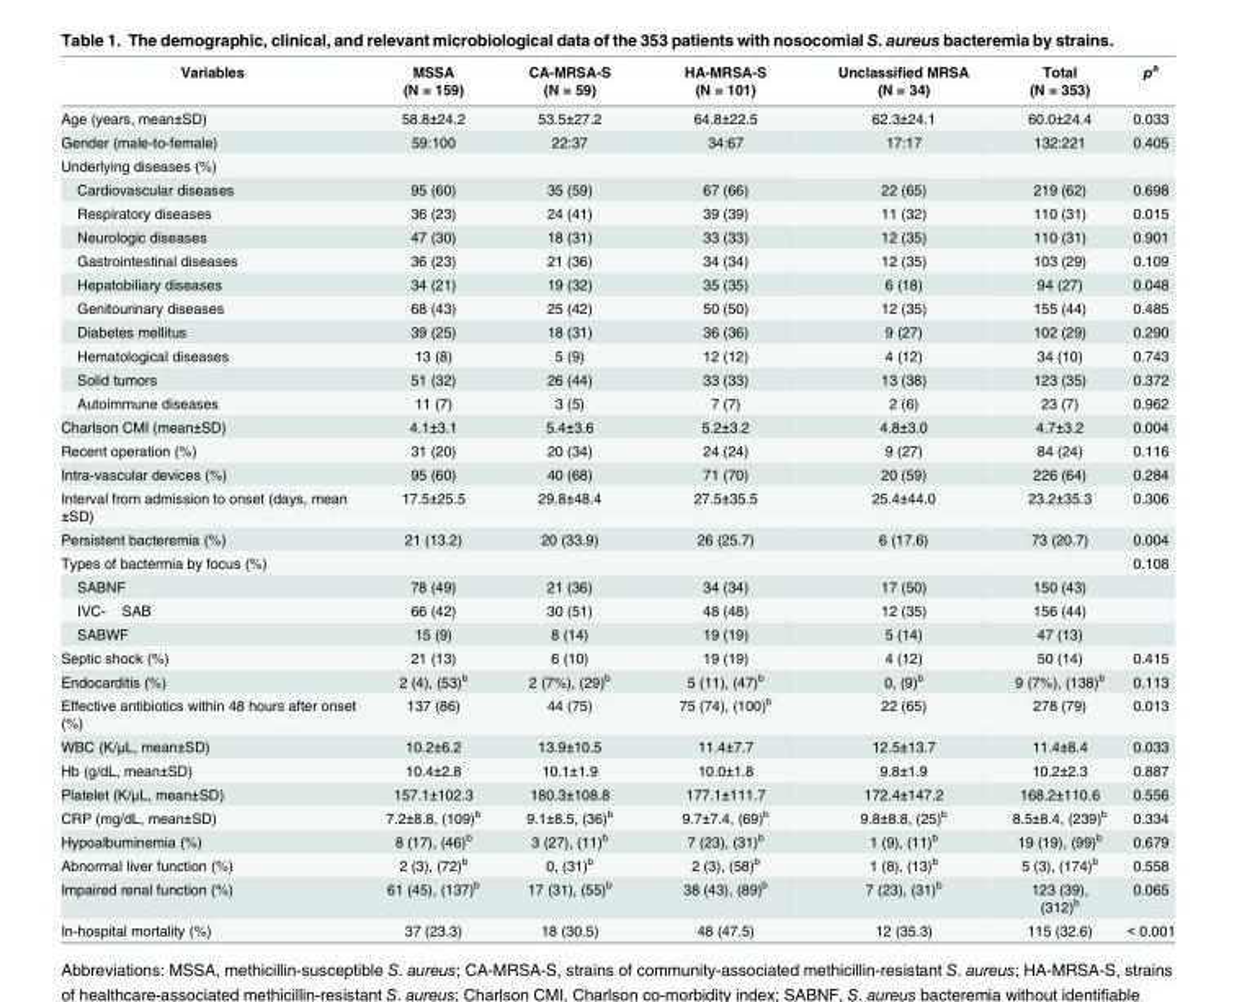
<table><thead><tr><td>Variables</td><td>MSSA (N = 159)</td><td>CA-MRSA-S (N = 59)</td><td>HA-MRSA-S (N = 101)</td><td>Unclassified MRSA (N = 34)</td><td>Total (N = 353)</td><td>p<sup>a</sup></td></tr></thead><tbody><tr><td>Age (years, mean±SD)</td><td>58.8±24.2</td><td>53.5±27.2</td><td>64.8±22.5</td><td>62.3±24.1</td><td>60.0±24.4</td><td>0.033</td></tr><tr><td>Gender (male-to-female)</td><td>59:100</td><td>22:37</td><td>34:67</td><td>17:17</td><td>132:221</td><td>0.405</td></tr><tr><td colspan="7">Underlying diseases (%)</td></tr><tr><td>Cardiovascular diseases</td><td>95 (60)</td><td>35 (59)</td><td>67 (66)</td><td>22 (65)</td><td>219 (62)</td><td>0.698</td></tr><tr><td>Respiratory diseases</td><td>36 (23)</td><td>24 (41)</td><td>39 (39)</td><td>11 (32)</td><td>110 (31)</td><td>0.015</td></tr><tr><td>Neurologic diseases</td><td>47 (30)</td><td>18 (31)</td><td>33 (33)</td><td>12 (35)</td><td>110 (31)</td><td>0.901</td></tr><tr><td>Gastrointestinal diseases</td><td>36 (23)</td><td>21 (36)</td><td>34 (34)</td><td>12 (35)</td><td>103 (29)</td><td>0.109</td></tr><tr><td>Hepatobiliary diseases</td><td>34 (21)</td><td>19 (32)</td><td>35 (35)</td><td>6 (18)</td><td>94 (27)</td><td>0.048</td></tr><tr><td>Genitourinary diseases</td><td>68 (43)</td><td>25 (42)</td><td>50 (50)</td><td>12 (35)</td><td>155 (44)</td><td>0.485</td></tr><tr><td>Diabetes mellitus</td><td>39 (25)</td><td>18 (31)</td><td>36 (36)</td><td>9 (27)</td><td>102 (29)</td><td>0.290</td></tr><tr><td>Hematological diseases</td><td>13 (8)</td><td>5 (9)</td><td>12 (12)</td><td>4 (12)</td><td>34 (10)</td><td>0.743</td></tr><tr><td>Solid tumors</td><td>51 (32)</td><td>26 (44)</td><td>33 (33)</td><td>13 (38)</td><td>123 (35)</td><td>0.372</td></tr><tr><td>Autoimmune diseases</td><td>11 (7)</td><td>3 (5)</td><td>7 (7)</td><td>2 (6)</td><td>23 (7)</td><td>0.962</td></tr><tr><td>Charlson CMI (mean±SD)</td><td>4.1±3.1</td><td>5.4±3.6</td><td>5.2±3.2</td><td>4.8±3.0</td><td>4.7±3.2</td><td>0.004</td></tr><tr><td>Recent operation (%)</td><td>31 (20)</td><td>20 (34)</td><td>24 (24)</td><td>9 (27)</td><td>84 (24)</td><td>0.116</td></tr><tr><td>Intra-vascular devices (%)</td><td>95 (60)</td><td>40 (68)</td><td>71 (70)</td><td>20 (59)</td><td>226 (64)</td><td>0.284</td></tr><tr><td>Interval from admission to onset (days, mean ±SD)</td><td>17.5±25.5</td><td>29.8±48.4</td><td>27.5±35.5</td><td>25.4±44.0</td><td>23.2±35.3</td><td>0.306</td></tr><tr><td>Persistent bacteremia (%)</td><td>21 (13.2)</td><td>20 (33.9)</td><td>26 (25.7)</td><td>6 (17.6)</td><td>73 (20.7)</td><td>0.004</td></tr><tr><td colspan="6">Types of bactermia by focus (%)</td><td>0.108</td></tr><tr><td>SABNF</td><td>78 (49)</td><td>21 (36)</td><td>34 (34)</td><td>17 (50)</td><td>150 (43)</td><td></td></tr><tr><td>IVC- SAB</td><td>66 (42)</td><td>30 (51)</td><td>48 (48)</td><td>12 (35)</td><td>156 (44)</td><td></td></tr><tr><td>SABWF</td><td>15 (9)</td><td>8 (14)</td><td>19 (19)</td><td>5 (14)</td><td>47 (13)</td><td></td></tr><tr><td>Septic shock (%)</td><td>21 (13)</td><td>6 (10)</td><td>19 (19)</td><td>4 (12)</td><td>50 (14)</td><td>0.415</td></tr><tr><td>Endocarditis (%)</td><td>2 (4), (53)<sup>b</sup></td><td>2 (7%), (29)<sup>b</sup></td><td>5 (11), (47)<sup>b</sup></td><td>0, (9)<sup>b</sup></td><td>9 (7%), (138)<sup>b</sup></td><td>0.113</td></tr><tr><td>Effective antibiotics within 48 hours after onset (%)</td><td>137 (86)</td><td>44 (75)</td><td>75 (74), (100)<sup>b</sup></td><td>22 (65)</td><td>278 (79)</td><td>0.013</td></tr><tr><td>WBC (K/μL, mean±SD)</td><td>10.2±6.2</td><td>13.9±10.5</td><td>11.4±7.7</td><td>12.5±13.7</td><td>11.4±8.4</td><td>0.033</td></tr><tr><td>Hb (g/dL, mean±SD)</td><td>10.4±2.8</td><td>10.1±1.9</td><td>10.0±1.8</td><td>9.8±1.9</td><td>10.2±2.3</td><td>0.887</td></tr><tr><td>Platelet (K/μL, mean±SD)</td><td>157.1±102.3</td><td>180.3±108.8</td><td>177.1±111.7</td><td>172.4±147.2</td><td>168.2±110.6</td><td>0.556</td></tr><tr><td>CRP (mg/dL, mean±SD)</td><td>7.2±8.8, (109)<sup>b</sup></td><td>9.1±8.5, (36)<sup>b</sup></td><td>9.7±7.4, (69)<sup>b</sup></td><td>9.8±8.8, (25)<sup>b</sup></td><td>8.5±8.4, (239)<sup>b</sup></td><td>0.334</td></tr><tr><td>Hypoalbuminemia (%)</td><td>8 (17), (46)<sup>b</sup></td><td>3 (27), (11)<sup>b</sup></td><td>7 (23), (31)<sup>b</sup></td><td>1 (9), (11)<sup>b</sup></td><td>19 (19), (99)<sup>b</sup></td><td>0.679</td></tr><tr><td>Abnormal liver function (%)</td><td>2 (3), (72)<sup>b</sup></td><td>0, (31)<sup>b</sup></td><td>2 (3), (58)<sup>b</sup></td><td>1 (8), (13)<sup>b</sup></td><td>5 (3), (174)<sup>b</sup></td><td>0.558</td></tr><tr><td>Impaired renal function (%)</td><td>61 (45), (137)<sup>b</sup></td><td>17 (31), (55)<sup>b</sup></td><td>38 (43), (89)<sup>b</sup></td><td>7 (23), (31)<sup>b</sup></td><td>123 (39), (312)<sup>b</sup></td><td>0.065</td></tr><tr><td>In-hospital mortality (%)</td><td>37 (23.3)</td><td>18 (30.5)</td><td>48 (47.5)</td><td>12 (35.3)</td><td>115 (32.6)</td><td>&lt; 0.001</td></tr></tbody></table>